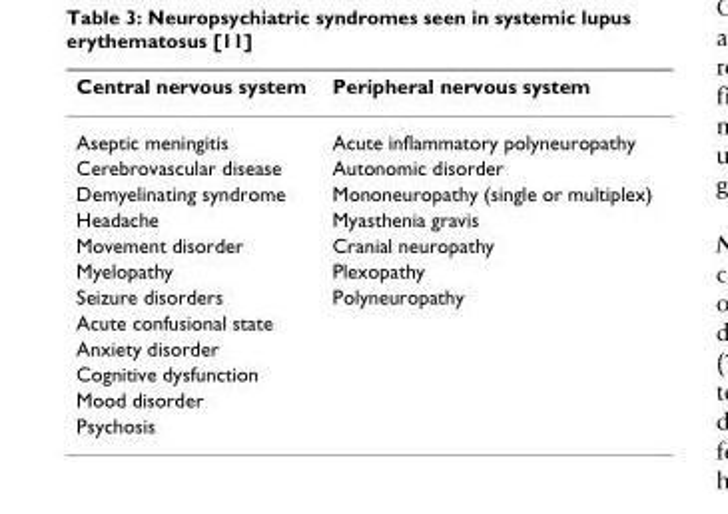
<table><thead><tr><td>Central nervous system</td><td>Peripheral nervous system</td></tr></thead><tbody><tr><td>Aseptic meningitis</td><td>Acute inflammatory polyneuropathy</td></tr><tr><td>Cerebrovascular disease</td><td>Autonomic disorder</td></tr><tr><td>Demyelinating syndrome</td><td>Mononeuropathy (single or multiplex)</td></tr><tr><td>Headache</td><td>Myasthenia gravis</td></tr><tr><td>Movement disorder</td><td>Cranial neuropathy</td></tr><tr><td>Myelopathy</td><td>Plexopathy</td></tr><tr><td>Seizure disorders</td><td>Polyneuropathy</td></tr><tr><td colspan="2">Acute confusional state</td></tr><tr><td colspan="2">Anxiety disorder</td></tr><tr><td colspan="2">Cognitive dysfunction</td></tr><tr><td colspan="2">Mood disorder</td></tr><tr><td>Psychosis</td><td></td></tr></tbody></table>